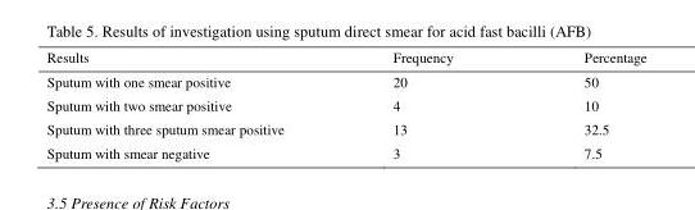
<table><thead><tr><td>Results</td><td>Frequency</td><td>Percentage</td></tr></thead><tbody><tr><td>Sputum with one smear positive</td><td>20</td><td>50</td></tr><tr><td>Sputum with two smear positive</td><td>4</td><td>10</td></tr><tr><td>Sputum with three sputum smear positive</td><td>13</td><td>32.5</td></tr><tr><td>Sputum with smear negative</td><td>3</td><td>7.5</td></tr></tbody></table>